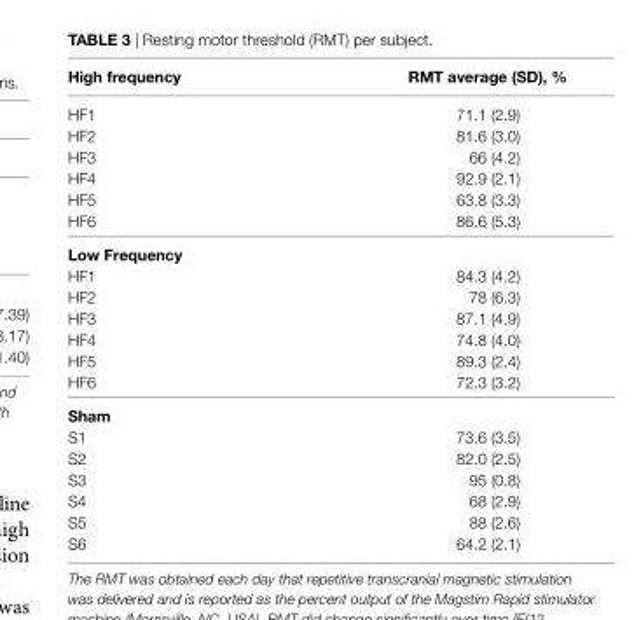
<table><thead><tr><td>high frequency</td><td>rMT average (sD), %</td></tr></thead><tbody><tr><td>HF1</td><td>71.1 (2.9)</td></tr><tr><td>HF2</td><td>81.6 (3.0)</td></tr><tr><td>HF3</td><td>66 (4.2)</td></tr><tr><td>HF4</td><td>92.9 (2.1)</td></tr><tr><td>HF5</td><td>63.8 (3.3)</td></tr><tr><td>HF6</td><td>86.6 (5.3)</td></tr><tr><td colspan="2">low Frequency</td></tr><tr><td>HF1</td><td>84.3 (4.2)</td></tr><tr><td>HF2</td><td>78 (6.3)</td></tr><tr><td>HF3</td><td>87.1 (4.9)</td></tr><tr><td>HF4</td><td>74.8 (4.0)</td></tr><tr><td>HF5</td><td>89.3 (2.4)</td></tr><tr><td>HF6</td><td>72.3 (3.2)</td></tr><tr><td colspan="2">sham</td></tr><tr><td>S1</td><td>73.6 (3.5)</td></tr><tr><td>S2</td><td>82.0 (2.5)</td></tr><tr><td>S3</td><td>95 (0.8)</td></tr><tr><td>S4</td><td>68 (2.9)</td></tr><tr><td>S5</td><td>88 (2.6)</td></tr><tr><td>S6</td><td>64.2 (2.1)</td></tr></tbody></table>